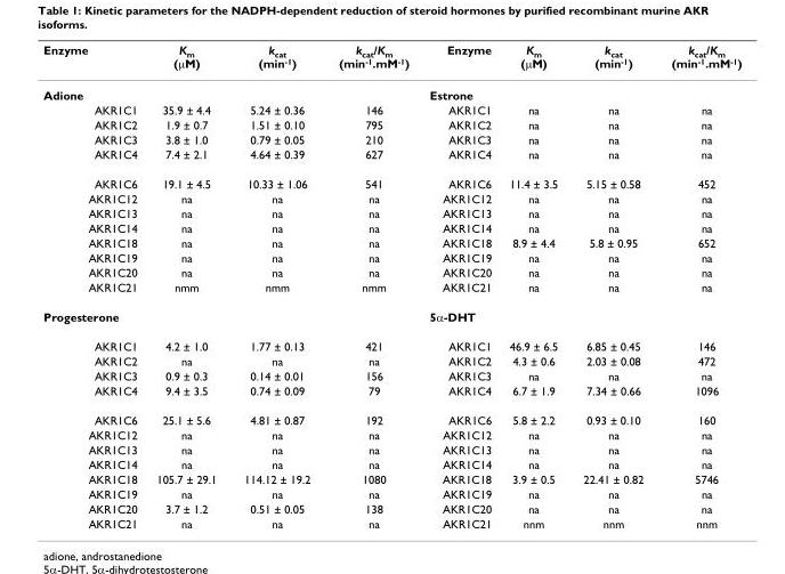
<table><thead><tr><td>Enzyme</td><td>K<sub>m</sub> (μM)</td><td>k<sub>cat</sub> (min<sup>-1</sup>)</td><td>k<sub>cat</sub>/K<sub>m</sub> (min<sup>-1</sup>.mM<sup>-1</sup>)</td><td>Enzyme</td><td>K<sub>m</sub> (μM)</td><td>k<sub>cat</sub> (min<sup>-1</sup>)</td><td>k<sub>cat</sub>/K<sub>m</sub> (min<sup>-1</sup>.mM<sup>-1</sup>)</td></tr></thead><tbody><tr><td>Adione</td><td></td><td></td><td></td><td>Estrone</td><td></td><td></td><td></td></tr><tr><td>AKR1C1</td><td>35.9 ± 4.4</td><td>5.24 ± 0.36</td><td>146</td><td>AKR1C1</td><td>na</td><td>na</td><td>na</td></tr><tr><td>AKR1C2</td><td>1.9 ± 0.7</td><td>1.51 ± 0.10</td><td>795</td><td>AKR1C2</td><td>na</td><td>na</td><td>na</td></tr><tr><td>AKR1C3</td><td>3.8 ± 1.0</td><td>0.79 ± 0.05</td><td>210</td><td>AKR1C3</td><td>na</td><td>na</td><td>na</td></tr><tr><td>AKR1C4</td><td>7.4 ± 2.1</td><td>4.64 ± 0.39</td><td>627</td><td>AKR1C4</td><td>na</td><td>na</td><td>na</td></tr><tr><td>AKR1C6</td><td>19.1 ± 4.5</td><td>10.33 ± 1.06</td><td>541</td><td>AKR1C6</td><td>11.4 ± 3.5</td><td>5.15 ± 0.58</td><td>452</td></tr><tr><td>AKR1C12</td><td>na</td><td>na</td><td>na</td><td>AKR1C12</td><td>na</td><td>na</td><td>na</td></tr><tr><td>AKR1C13</td><td>na</td><td>na</td><td>na</td><td>AKR1C13</td><td>na</td><td>na</td><td>na</td></tr><tr><td>AKR1C14</td><td>na</td><td>na</td><td>na</td><td>AKR1C14</td><td>na</td><td>na</td><td>na</td></tr><tr><td>AKR1C18</td><td>na</td><td>na</td><td>na</td><td>AKR1C18</td><td>8.9 ± 4.4</td><td>5.8 ± 0.95</td><td>652</td></tr><tr><td>AKR1C19</td><td>na</td><td>na</td><td>na</td><td>AKR1C19</td><td>na</td><td>na</td><td>na</td></tr><tr><td>AKR1C20</td><td>na</td><td>na</td><td>na</td><td>AKR1C20</td><td>na</td><td>na</td><td>na</td></tr><tr><td>AKR1C21</td><td>nmm</td><td>nmm</td><td>nmm</td><td>AKR1C21</td><td>na</td><td>na</td><td>na</td></tr><tr><td>Progesterone</td><td></td><td></td><td></td><td>5α-DHT</td><td></td><td></td><td></td></tr><tr><td>AKR1C1</td><td>4.2 ± 1.0</td><td>1.77 ± 0.13</td><td>421</td><td>AKR1C1</td><td>46.9 ± 6.5</td><td>6.85 ± 0.45</td><td>146</td></tr><tr><td>AKR1C2</td><td>na</td><td>na</td><td>na</td><td>AKR1C2</td><td>4.3 ± 0.6</td><td>2.03 ± 0.08</td><td>472</td></tr><tr><td>AKR1C3</td><td>0.9 ± 0.3</td><td>0.14 ± 0.01</td><td>156</td><td>AKR1C3</td><td>na</td><td>na</td><td>na</td></tr><tr><td>AKR1C4</td><td>9.4 ± 3.5</td><td>0.74 ± 0.09</td><td>79</td><td>AKR1C4</td><td>6.7 ± 1.9</td><td>7.34 ± 0.66</td><td>1096</td></tr><tr><td>AKR1C6</td><td>25.1 ± 5.6</td><td>4.81 ± 0.87</td><td>192</td><td>AKR1C6</td><td>5.8 ± 2.2</td><td>0.93 ± 0.10</td><td>160</td></tr><tr><td>AKR1C12</td><td>na</td><td>na</td><td>na</td><td>AKR1C12</td><td>na</td><td>na</td><td>na</td></tr><tr><td>AKR1C13</td><td>na</td><td>na</td><td>na</td><td>AKR1C13</td><td>na</td><td>na</td><td>na</td></tr><tr><td>AKR1C14</td><td>na</td><td>na</td><td>na</td><td>AKR1C14</td><td>na</td><td>na</td><td>na</td></tr><tr><td>AKR1C18</td><td>105.7 ± 29.1</td><td>114.12 ± 19.2</td><td>1080</td><td>AKR1C18</td><td>3.9 ± 0.5</td><td>22.41 ± 0.82</td><td>5746</td></tr><tr><td>AKR1C19</td><td>na</td><td>na</td><td>na</td><td>AKR1C19</td><td>na</td><td>na</td><td>na</td></tr><tr><td>AKR1C20</td><td>3.7 ± 1.2</td><td>0.51 ± 0.05</td><td>138</td><td>AKR1C20</td><td>na</td><td>na</td><td>na</td></tr><tr><td>AKR1C21</td><td>na</td><td>na</td><td>na</td><td>AKR1C21</td><td>nnm</td><td>nnm</td><td>nnm</td></tr></tbody></table>